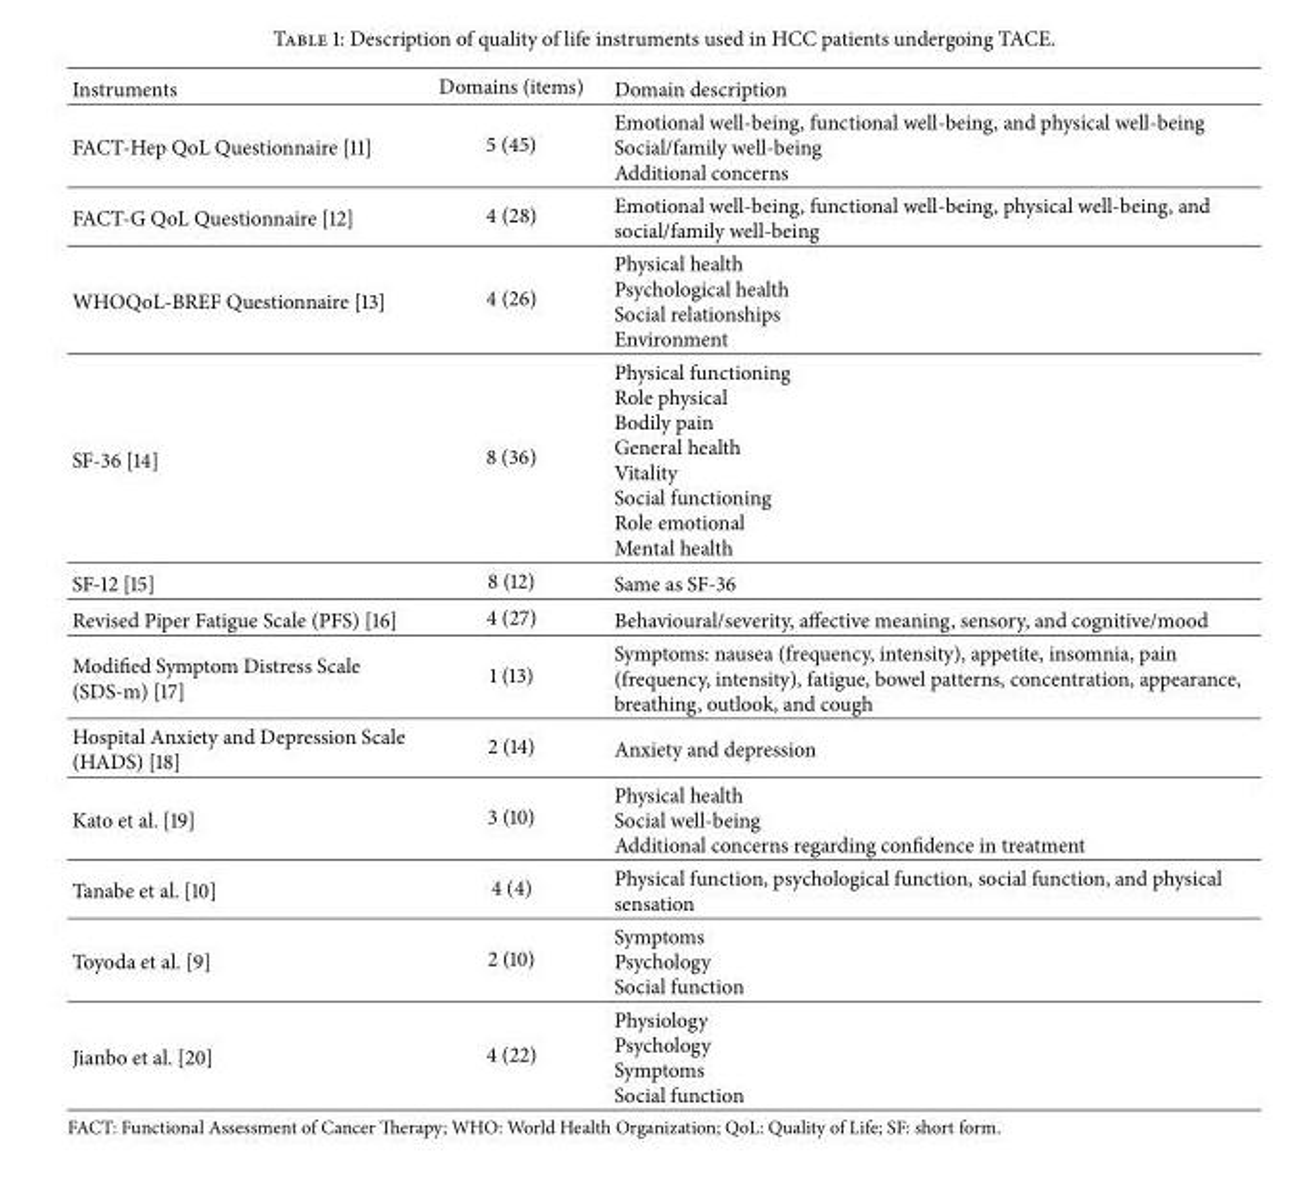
<table><thead><tr><td>Instruments</td><td>Domains (items)</td><td>Domain description</td></tr></thead><tbody><tr><td>FACT-Hep QoL Questionnaire [11]</td><td>5 (45)</td><td>Emotional well-being, functional well-being, and physical well-being Social/family well-being Additional concerns</td></tr><tr><td>FACT-G QoL Questionnaire [12]</td><td>4 (28)</td><td>Emotional well-being, functional well-being, physical well-being, and social/family well-being</td></tr><tr><td>WHOQoL-BREF Questionnaire [13]</td><td>4 (26)</td><td>Physical health Psychological health Social relationships Environment</td></tr><tr><td>SF-36 [14]</td><td>8 (36)</td><td>Physical functioning Role physical Bodily pain General health Vitality Social functioning Role emotional Mental health</td></tr><tr><td>SF-12 [15]</td><td>8 (12)</td><td>Same as SF-36</td></tr><tr><td>Revised Piper Fatigue Scale (PFS) [16]</td><td>4 (27)</td><td>Behavioural/severity, affective meaning, sensory, and cognitive/mood</td></tr><tr><td>Modified Symptom Distress Scale (SDS-m) [17]</td><td>1 (13)</td><td>Symptoms: nausea (frequency, intensity), appetite, insomnia, pain (frequency, intensity), fatigue, bowel patterns, concentration, appearance, breathing, outlook, and cough</td></tr><tr><td>Hospital Anxiety and Depression Scale (HADS) [18]</td><td>2 (14)</td><td>Anxiety and depression</td></tr><tr><td>Kato et al. [19]</td><td>3 (10)</td><td>Physical health Social well-being Additional concerns regarding confidence in treatment</td></tr><tr><td>Tanabe et al. [10]</td><td>4 (4)</td><td>Physical function, psychological function, social function, and physical sensation</td></tr><tr><td>Toyoda et al. [9]</td><td>2 (10)</td><td>Symptoms Psychology Social function</td></tr><tr><td>Jianbo et al. [20]</td><td>4 (22)</td><td>Physiology Psychology Symptoms Social function</td></tr></tbody></table>